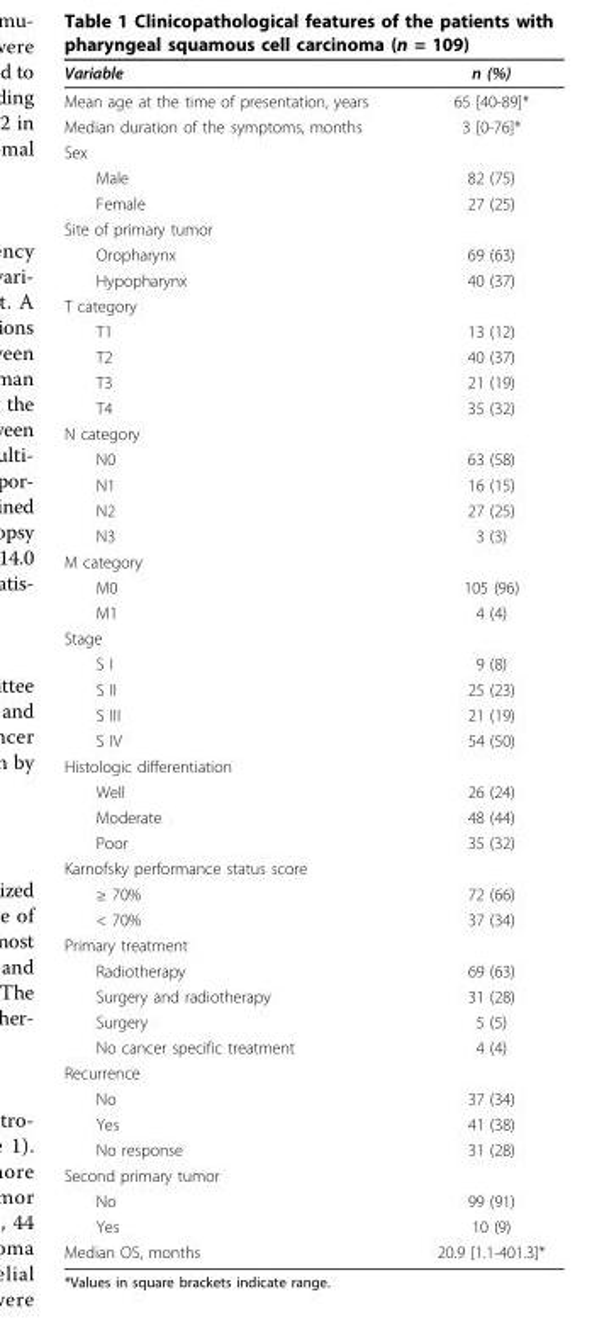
<table><thead><tr><td>Variable</td><td>n (%)</td></tr></thead><tbody><tr><td>Mean age at the time of presentation, years</td><td>65 [40-89]*</td></tr><tr><td>Median duration of the symptoms, months</td><td>3 [0-76]*</td></tr><tr><td colspan="2">Sex</td></tr><tr><td>Male</td><td>82 (75)</td></tr><tr><td>Female</td><td>27 (25)</td></tr><tr><td colspan="2">Site of primary tumor</td></tr><tr><td>Oropharynx</td><td>69 (63)</td></tr><tr><td>Hypopharynx</td><td>40 (37)</td></tr><tr><td colspan="2">T category</td></tr><tr><td>T1</td><td>13 (12)</td></tr><tr><td>T2</td><td>40 (37)</td></tr><tr><td>T3</td><td>21 (19)</td></tr><tr><td>T4</td><td>35 (32)</td></tr><tr><td colspan="2">N category</td></tr><tr><td>N0</td><td>63 (58)</td></tr><tr><td>N1</td><td>16 (15)</td></tr><tr><td>N2</td><td>27 (25)</td></tr><tr><td>N3</td><td>3 (3)</td></tr><tr><td colspan="2">M category</td></tr><tr><td>M0</td><td>105 (96)</td></tr><tr><td>M1</td><td>4 (4)</td></tr><tr><td colspan="2">Stage</td></tr><tr><td>S I</td><td>9 (8)</td></tr><tr><td>S II</td><td>25 (23)</td></tr><tr><td>S III</td><td>21 (19)</td></tr><tr><td>S IV</td><td>54 (50)</td></tr><tr><td colspan="2">Histologic differentiation</td></tr><tr><td>Well</td><td>26 (24)</td></tr><tr><td>Moderate</td><td>48 (44)</td></tr><tr><td>Poor</td><td>35 (32)</td></tr><tr><td colspan="2">Karnofsky performance status score</td></tr><tr><td>≥ 70%</td><td>72 (66)</td></tr><tr><td>&lt; 70%</td><td>37 (34)</td></tr><tr><td colspan="2">Primary treatment</td></tr><tr><td>Radiotherapy</td><td>69 (63)</td></tr><tr><td>Surgery and radiotherapy</td><td>31 (28)</td></tr><tr><td>Surgery</td><td>5 (5)</td></tr><tr><td>No cancer specific treatment</td><td>4 (4)</td></tr><tr><td colspan="2">Recurrence</td></tr><tr><td>No</td><td>37 (34)</td></tr><tr><td>Yes</td><td>41 (38)</td></tr><tr><td>No response</td><td>31 (28)</td></tr><tr><td colspan="2">Second primary tumor</td></tr><tr><td>No</td><td>99 (91)</td></tr><tr><td>Yes</td><td>10 (9)</td></tr><tr><td>Median OS, months</td><td>20.9 [1.1-401.3]*</td></tr></tbody></table>